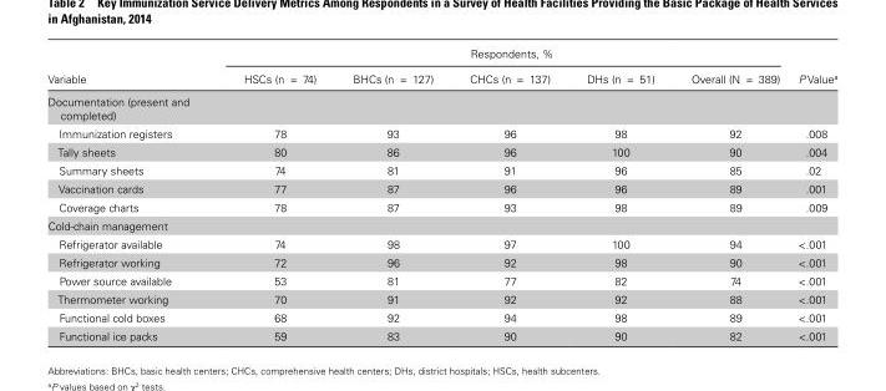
<table><thead><tr><td rowspan="2">Variable</td><td colspan="5">Respondents, %</td><td rowspan="2">P Value<sup>a</sup></td></tr><tr><td>HSCs (n = 74)</td><td>BHCs (n = 127)</td><td>CHCs (n = 137)</td><td>DHs (n = 51)</td><td>Overall (N = 389)</td></tr></thead><tbody><tr><td colspan="7">Documentation (present and completed)</td></tr><tr><td>Immunization registers</td><td>78</td><td>93</td><td>96</td><td>98</td><td>92</td><td>.008</td></tr><tr><td>Tally sheets</td><td>80</td><td>86</td><td>96</td><td>100</td><td>90</td><td>.004</td></tr><tr><td>Summary sheets</td><td>74</td><td>81</td><td>91</td><td>96</td><td>85</td><td>.02</td></tr><tr><td>Vaccination cards</td><td>77</td><td>87</td><td>96</td><td>96</td><td>89</td><td>.001</td></tr><tr><td>Coverage charts</td><td>78</td><td>87</td><td>93</td><td>98</td><td>89</td><td>.009</td></tr><tr><td colspan="7">Cold-chain management</td></tr><tr><td>Refrigerator available</td><td>74</td><td>98</td><td>97</td><td>100</td><td>94</td><td>&lt;.001</td></tr><tr><td>Refrigerator working</td><td>72</td><td>96</td><td>92</td><td>98</td><td>90</td><td>&lt;.001</td></tr><tr><td>Power source available</td><td>53</td><td>81</td><td>77</td><td>82</td><td>74</td><td>&lt;.001</td></tr><tr><td>Thermometer working</td><td>70</td><td>91</td><td>92</td><td>92</td><td>88</td><td>&lt;.001</td></tr><tr><td>Functional cold boxes</td><td>68</td><td>92</td><td>94</td><td>98</td><td>89</td><td>&lt;.001</td></tr><tr><td>Functional ice packs</td><td>59</td><td>83</td><td>90</td><td>90</td><td>82</td><td>&lt;.001</td></tr></tbody></table>